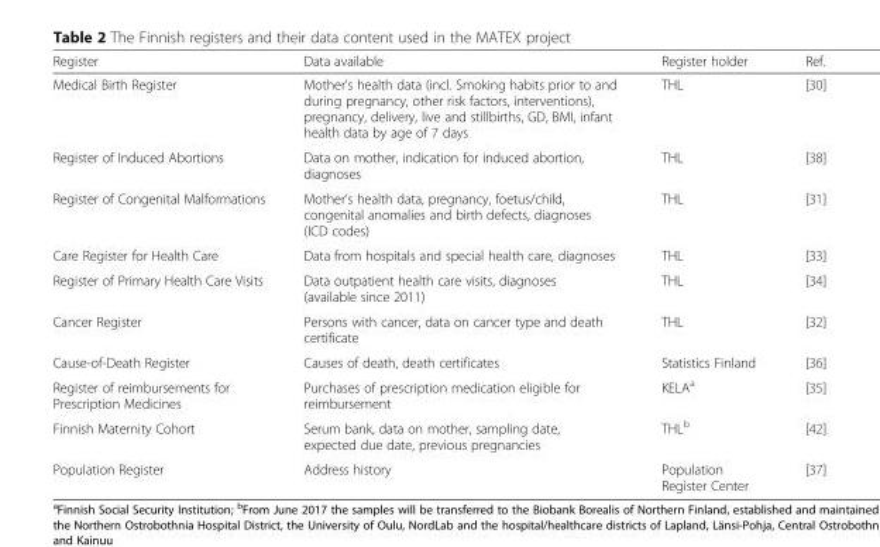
<table><thead><tr><td>Register</td><td>Data available</td><td>Register holder</td><td>Ref.</td></tr></thead><tbody><tr><td>Medical Birth Register</td><td>Mother’s health data (incl. Smoking habits prior to and during pregnancy, other risk factors, interventions), pregnancy, delivery, live and stillbirths, GD, BMI, infant health data by age of 7 days</td><td>THL</td><td>[30]</td></tr><tr><td>Register of Induced Abortions</td><td>Data on mother, indication for induced abortion, diagnoses</td><td>THL</td><td>[38]</td></tr><tr><td>Register of Congenital Malformations</td><td>Mother’s health data, pregnancy, foetus/child, congenital anomalies and birth defects, diagnoses (ICD codes)</td><td>THL</td><td>[31]</td></tr><tr><td>Care Register for Health Care</td><td>Data from hospitals and special health care, diagnoses</td><td>THL</td><td>[33]</td></tr><tr><td>Register of Primary Health Care Visits</td><td>Data outpatient health care visits, diagnoses (available since 2011)</td><td>THL</td><td>[34]</td></tr><tr><td>Cancer Register</td><td>Persons with cancer, data on cancer type and death certificate</td><td>THL</td><td>[32]</td></tr><tr><td>Cause-of-Death Register</td><td>Causes of death, death certificates</td><td>Statistics Finland</td><td>[36]</td></tr><tr><td>Register of reimbursements for Prescription Medicines</td><td>Purchases of prescription medication eligible for reimbursement</td><td>KELA<sup>a</sup></td><td>[35]</td></tr><tr><td>Finnish Maternity Cohort</td><td>Serum bank, data on mother, sampling date, expected due date, previous pregnancies</td><td>THL<sup>b</sup></td><td>[42]</td></tr><tr><td>Population Register</td><td>Address history</td><td>Population Register Center</td><td>[37]</td></tr></tbody></table>